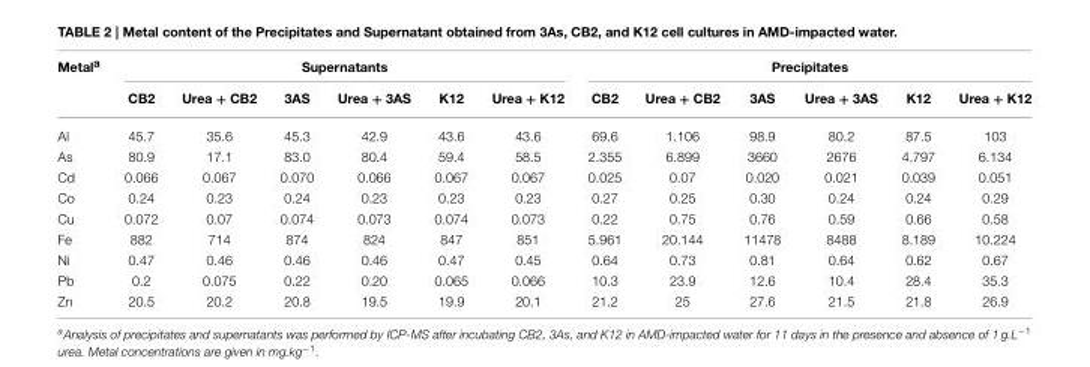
<table><thead><tr><td rowspan="2">Metal<sup>a</sup></td><td colspan="6">Supernatants</td><td colspan="6">Precipitates</td></tr><tr><td>CB2</td><td>Urea + CB2</td><td>3AS</td><td>Urea + 3AS</td><td>K12</td><td>Urea + K12</td><td>CB2</td><td>Urea + CB2</td><td>3AS</td><td>Urea + 3AS</td><td>K12</td><td>Urea + K12</td></tr></thead><tbody><tr><td>Al</td><td>45.7</td><td>35.6</td><td>45.3</td><td>42.9</td><td>43.6</td><td>43.6</td><td>69.6</td><td>1.106</td><td>98.9</td><td>80.2</td><td>87.5</td><td>103</td></tr><tr><td>As</td><td>80.9</td><td>17.1</td><td>83.0</td><td>80.4</td><td>59.4</td><td>58.5</td><td>2.355</td><td>6.899</td><td>3660</td><td>2676</td><td>4.797</td><td>6.134</td></tr><tr><td>Cd</td><td>0.066</td><td>0.067</td><td>0.070</td><td>0.066</td><td>0.067</td><td>0.067</td><td>0.025</td><td>0.07</td><td>0.020</td><td>0.021</td><td>0.039</td><td>0.051</td></tr><tr><td>Co</td><td>0.24</td><td>0.23</td><td>0.24</td><td>0.23</td><td>0.23</td><td>0.23</td><td>0.27</td><td>0.25</td><td>0.30</td><td>0.24</td><td>0.24</td><td>0.29</td></tr><tr><td>Cu</td><td>0.072</td><td>0.07</td><td>0.074</td><td>0.073</td><td>0.074</td><td>0.073</td><td>0.22</td><td>0.75</td><td>0.76</td><td>0.59</td><td>0.66</td><td>0.58</td></tr><tr><td>Fe</td><td>882</td><td>714</td><td>874</td><td>824</td><td>847</td><td>851</td><td>5.961</td><td>20.144</td><td>11478</td><td>8488</td><td>8.189</td><td>10.224</td></tr><tr><td>Ni</td><td>0.47</td><td>0.46</td><td>0.46</td><td>0.46</td><td>0.47</td><td>0.45</td><td>0.64</td><td>0.73</td><td>0.81</td><td>0.64</td><td>0.62</td><td>0.67</td></tr><tr><td>Pb</td><td>0.2</td><td>0.075</td><td>0.22</td><td>0.20</td><td>0.065</td><td>0.066</td><td>10.3</td><td>23.9</td><td>12.6</td><td>10.4</td><td>28.4</td><td>35.3</td></tr><tr><td>Zn</td><td>20.5</td><td>20.2</td><td>20.8</td><td>19.5</td><td>19.9</td><td>20.1</td><td>21.2</td><td>25</td><td>27.6</td><td>21.5</td><td>21.8</td><td>26.9</td></tr></tbody></table>